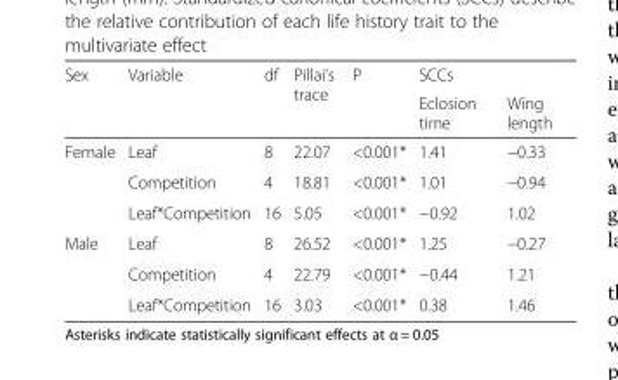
<table><thead><tr><td rowspan="2">Sex</td><td rowspan="2">Variable</td><td rowspan="2">df</td><td rowspan="2">Pillai’s trace</td><td rowspan="2">P</td><td colspan="2">SCCs</td></tr><tr><td>Eclosion time</td><td>Wing length</td></tr></thead><tbody><tr><td rowspan="3">Female</td><td>Leaf</td><td>8</td><td>22.07</td><td>&lt;0.001*</td><td>1.41</td><td>−0.33</td></tr><tr><td>Competition</td><td>4</td><td>18.81</td><td>&lt;0.001*</td><td>1.01</td><td>−0.94</td></tr><tr><td>Leaf*Competition</td><td>16</td><td>5.05</td><td>&lt;0.001*</td><td>−0.92</td><td>1.02</td></tr><tr><td rowspan="3">Male</td><td>Leaf</td><td>8</td><td>26.52</td><td>&lt;0.001*</td><td>1.25</td><td>−0.27</td></tr><tr><td>Competition</td><td>4</td><td>22.79</td><td>&lt;0.001*</td><td>−0.44</td><td>1.21</td></tr><tr><td>Leaf*Competition</td><td>16</td><td>3.03</td><td>&lt;0.001*</td><td>0.38</td><td>1.46</td></tr></tbody></table>